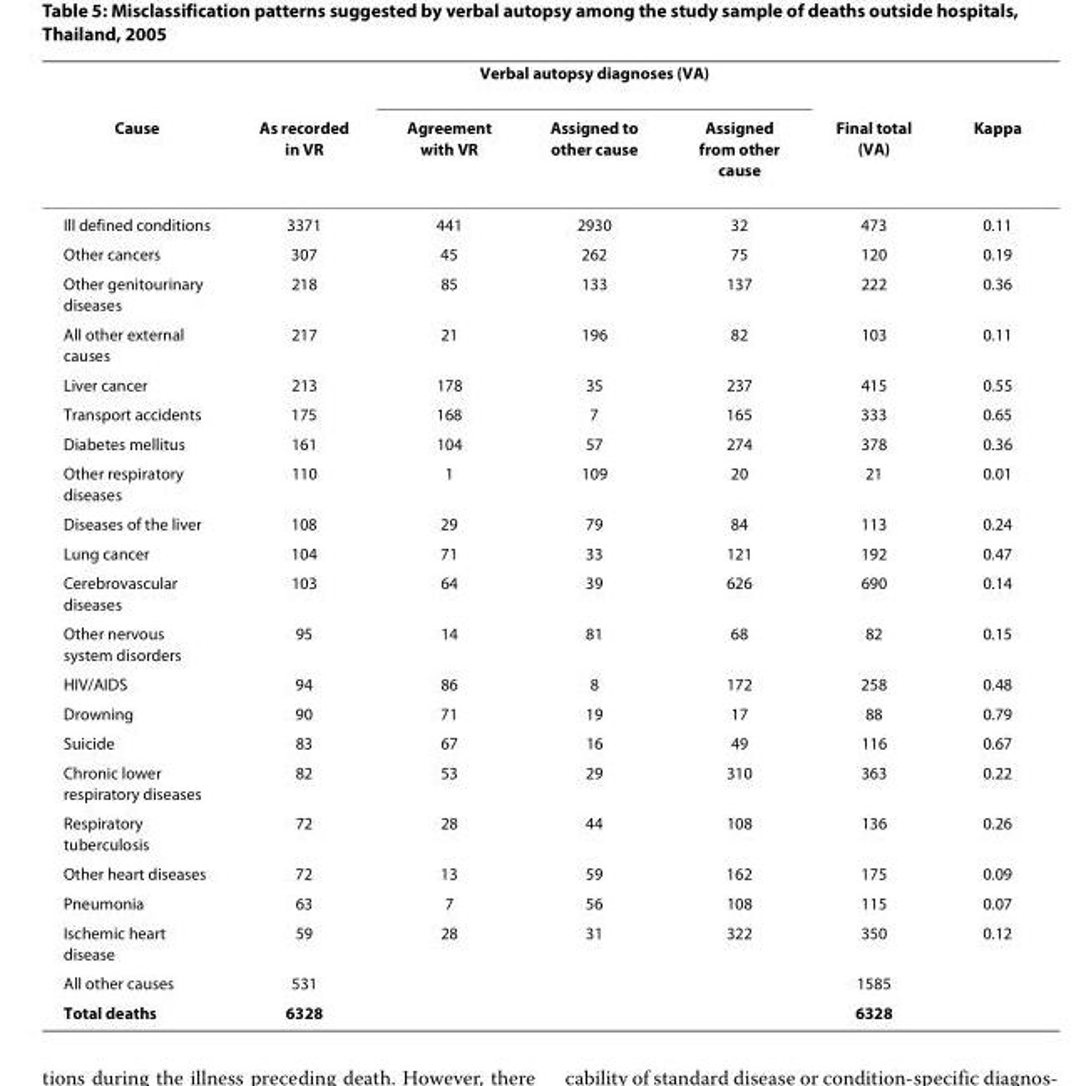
<table><thead><tr><td rowspan="2">Cause</td><td rowspan="2">As recorded in VR</td><td colspan="3">Verbal autopsy diagnoses (VA)</td><td rowspan="2">Final total (VA)</td><td rowspan="2">Kappa</td></tr><tr><td>Agreement with VR</td><td>Assigned to other cause</td><td>Assigned from other cause</td></tr></thead><tbody><tr><td>Ill defined conditions</td><td>3371</td><td>441</td><td>2930</td><td>32</td><td>473</td><td>0.11</td></tr><tr><td>Other cancers</td><td>307</td><td>45</td><td>262</td><td>75</td><td>120</td><td>0.19</td></tr><tr><td>Other genitourinary diseases</td><td>218</td><td>85</td><td>133</td><td>137</td><td>222</td><td>0.36</td></tr><tr><td>All other external causes</td><td>217</td><td>21</td><td>196</td><td>82</td><td>103</td><td>0.11</td></tr><tr><td>Liver cancer</td><td>213</td><td>178</td><td>35</td><td>237</td><td>415</td><td>0.55</td></tr><tr><td>Transport accidents</td><td>175</td><td>168</td><td>7</td><td>165</td><td>333</td><td>0.65</td></tr><tr><td>Diabetes mellitus</td><td>161</td><td>104</td><td>57</td><td>274</td><td>378</td><td>0.36</td></tr><tr><td>Other respiratory diseases</td><td>110</td><td>1</td><td>109</td><td>20</td><td>21</td><td>0.01</td></tr><tr><td>Diseases of the liver</td><td>108</td><td>29</td><td>79</td><td>84</td><td>113</td><td>0.24</td></tr><tr><td>Lung cancer</td><td>104</td><td>71</td><td>33</td><td>121</td><td>192</td><td>0.47</td></tr><tr><td>Cerebrovascular diseases</td><td>103</td><td>64</td><td>39</td><td>626</td><td>690</td><td>0.14</td></tr><tr><td>Other nervous system disorders</td><td>95</td><td>14</td><td>81</td><td>68</td><td>82</td><td>0.15</td></tr><tr><td>HIV/AIDS</td><td>94</td><td>86</td><td>8</td><td>172</td><td>258</td><td>0.48</td></tr><tr><td>Drowning</td><td>90</td><td>71</td><td>19</td><td>17</td><td>88</td><td>0.79</td></tr><tr><td>Suicide</td><td>83</td><td>67</td><td>16</td><td>49</td><td>116</td><td>0.67</td></tr><tr><td>Chronic lower respiratory diseases</td><td>82</td><td>53</td><td>29</td><td>310</td><td>363</td><td>0.22</td></tr><tr><td>Respiratory tuberculosis</td><td>72</td><td>28</td><td>44</td><td>108</td><td>136</td><td>0.26</td></tr><tr><td>Other heart diseases</td><td>72</td><td>13</td><td>59</td><td>162</td><td>175</td><td>0.09</td></tr><tr><td>Pneumonia</td><td>63</td><td>7</td><td>56</td><td>108</td><td>115</td><td>0.07</td></tr><tr><td>Ischemic heart disease</td><td>59</td><td>28</td><td>31</td><td>322</td><td>350</td><td>0.12</td></tr><tr><td>All other causes</td><td>531</td><td></td><td></td><td></td><td>1585</td><td></td></tr><tr><td>Total deaths</td><td>6328</td><td></td><td></td><td></td><td>6328</td><td></td></tr></tbody></table>